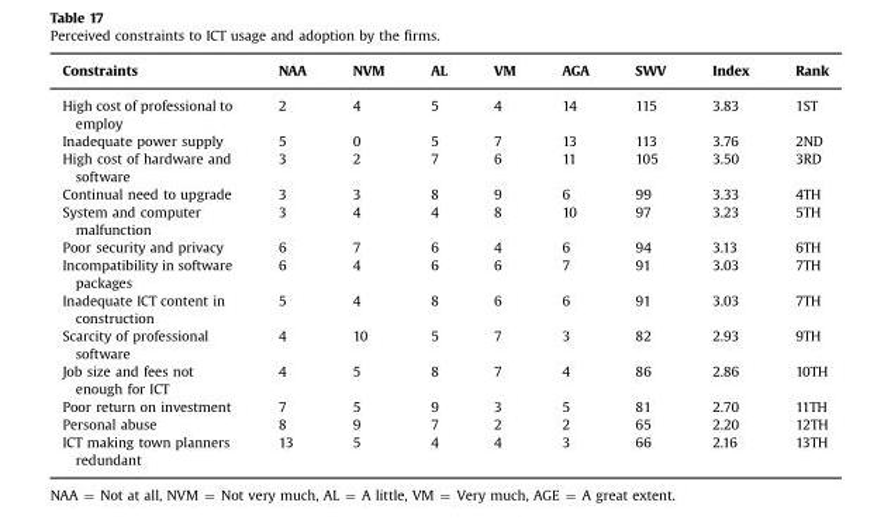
<table><thead><tr><td>Constraints</td><td>NAA</td><td>NVM</td><td>AL</td><td>VM</td><td>AGA</td><td>SWV</td><td>Index</td><td>Rank</td></tr></thead><tbody><tr><td>High cost of professional to employ</td><td>2</td><td>4</td><td>5</td><td>4</td><td>14</td><td>115</td><td>3.83</td><td>1ST</td></tr><tr><td>Inadequate power supply</td><td>5</td><td>0</td><td>5</td><td>7</td><td>13</td><td>113</td><td>3.76</td><td>2ND</td></tr><tr><td>High cost of hardware and software</td><td>3</td><td>2</td><td>7</td><td>6</td><td>11</td><td>105</td><td>3.50</td><td>3RD</td></tr><tr><td>Continual need to upgrade</td><td>3</td><td>3</td><td>8</td><td>9</td><td>6</td><td>99</td><td>3.33</td><td>4TH</td></tr><tr><td>System and computer malfunction</td><td>3</td><td>4</td><td>4</td><td>8</td><td>10</td><td>97</td><td>3.23</td><td>5TH</td></tr><tr><td>Poor security and privacy</td><td>6</td><td>7</td><td>6</td><td>4</td><td>6</td><td>94</td><td>3.13</td><td>6TH</td></tr><tr><td>Incompatibility in software packages</td><td>6</td><td>4</td><td>6</td><td>6</td><td>7</td><td>91</td><td>3.03</td><td>7TH</td></tr><tr><td>Inadequate ICT content in construction</td><td>5</td><td>4</td><td>8</td><td>6</td><td>6</td><td>91</td><td>3.03</td><td>7TH</td></tr><tr><td>Scarcity of professional software</td><td>4</td><td>10</td><td>5</td><td>7</td><td>3</td><td>82</td><td>2.93</td><td>9TH</td></tr><tr><td>Job size and fees not enough for ICT</td><td>4</td><td>5</td><td>8</td><td>7</td><td>4</td><td>86</td><td>2.86</td><td>10TH</td></tr><tr><td>Poor return on investment</td><td>7</td><td>5</td><td>9</td><td>3</td><td>5</td><td>81</td><td>2.70</td><td>11TH</td></tr><tr><td>Personal abuse</td><td>8</td><td>9</td><td>7</td><td>2</td><td>2</td><td>65</td><td>2.20</td><td>12TH</td></tr><tr><td>ICT making town planners redundant</td><td>13</td><td>5</td><td>4</td><td>4</td><td>3</td><td>66</td><td>2.16</td><td>13TH</td></tr></tbody></table>